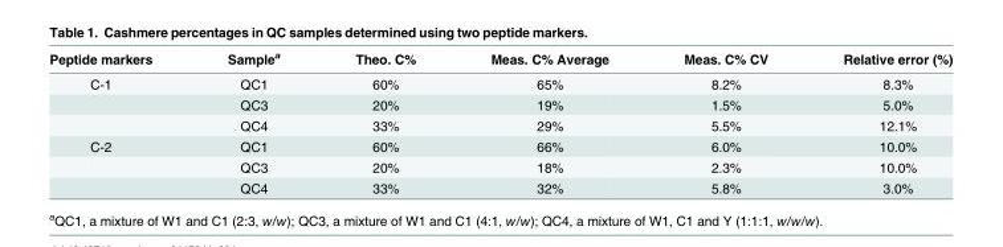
<table><thead><tr><td>Peptide markers</td><td>Sample<sup>a</sup></td><td>Theo. C%</td><td>Meas. C% Average</td><td>Meas. C% CV</td><td>Relative error (%)</td></tr></thead><tbody><tr><td rowspan="3">C-1</td><td>QC1</td><td>60%</td><td>65%</td><td>8.2%</td><td>8.3%</td></tr><tr><td>QC3</td><td>20%</td><td>19%</td><td>1.5%</td><td>5.0%</td></tr><tr><td>QC4</td><td>33%</td><td>29%</td><td>5.5%</td><td>12.1%</td></tr><tr><td rowspan="3">C-2</td><td>QC1</td><td>60%</td><td>66%</td><td>6.0%</td><td>10.0%</td></tr><tr><td>QC3</td><td>20%</td><td>18%</td><td>2.3%</td><td>10.0%</td></tr><tr><td>QC4</td><td>33%</td><td>32%</td><td>5.8%</td><td>3.0%</td></tr></tbody></table>